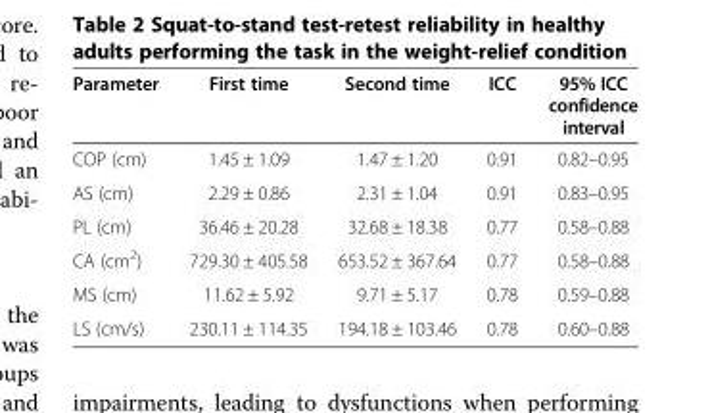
<table><thead><tr><td>Parameter</td><td>First time</td><td>Second time</td><td>ICC</td><td>95% ICC confidence interval</td></tr></thead><tbody><tr><td>COP (cm)</td><td>1.45 ± 1.09</td><td>1.47 ± 1.20</td><td>0.91</td><td>0.82–0.95</td></tr><tr><td>AS (cm)</td><td>2.29 ± 0.86</td><td>2.31 ± 1.04</td><td>0.91</td><td>0.83–0.95</td></tr><tr><td>PL (cm)</td><td>36.46 ± 20.28</td><td>32.68 ± 18.38</td><td>0.77</td><td>0.58–0.88</td></tr><tr><td>CA (cm<sup>2</sup>)</td><td>729.30 ± 405.58</td><td>653.52 ± 367.64</td><td>0.77</td><td>0.58–0.88</td></tr><tr><td>MS (cm)</td><td>11.62 ± 5.92</td><td>9.71 ± 5.17</td><td>0.78</td><td>0.59–0.88</td></tr><tr><td>LS (cm/s)</td><td>230.11 ± 114.35</td><td>194.18 ± 103.46</td><td>0.78</td><td>0.60–0.88</td></tr></tbody></table>